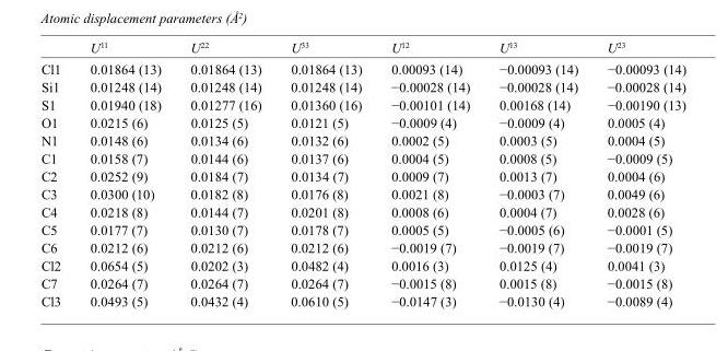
<table><thead><tr><td></td><td>U<sup>11</sup></td><td>U<sup>22</sup></td><td>U<sup>33</sup></td><td>U<sup>12</sup></td><td>U<sup>13</sup></td><td>U<sup>23</sup></td></tr></thead><tbody><tr><td>Cl1</td><td>0.01864 (13)</td><td>0.01864 (13)</td><td>0.01864 (13)</td><td>0.00093 (14)</td><td>−0.00093 (14)</td><td>−0.00093 (14)</td></tr><tr><td>Si1</td><td>0.01248 (14)</td><td>0.01248 (14)</td><td>0.01248 (14)</td><td>−0.00028 (14)</td><td>−0.00028 (14)</td><td>−0.00028 (14)</td></tr><tr><td>S1</td><td>0.01940 (18)</td><td>0.01277 (16)</td><td>0.01360 (16)</td><td>−0.00101 (14)</td><td>0.00168 (14)</td><td>−0.00190 (13)</td></tr><tr><td>O1</td><td>0.0215 (6)</td><td>0.0125 (5)</td><td>0.0121 (5)</td><td>−0.0009 (4)</td><td>−0.0009 (4)</td><td>0.0005 (4)</td></tr><tr><td>N1</td><td>0.0148 (6)</td><td>0.0134 (6)</td><td>0.0132 (6)</td><td>0.0002 (5)</td><td>0.0003 (5)</td><td>0.0004 (5)</td></tr><tr><td>C1</td><td>0.0158 (7)</td><td>0.0144 (6)</td><td>0.0137 (6)</td><td>0.0004 (5)</td><td>0.0008 (5)</td><td>−0.0009 (5)</td></tr><tr><td>C2</td><td>0.0252 (9)</td><td>0.0184 (7)</td><td>0.0134 (7)</td><td>0.0009 (7)</td><td>0.0013 (7)</td><td>0.0004 (6)</td></tr><tr><td>C3</td><td>0.0300 (10)</td><td>0.0182 (8)</td><td>0.0176 (8)</td><td>0.0021 (8)</td><td>−0.0003 (7)</td><td>0.0049 (6)</td></tr><tr><td>C4</td><td>0.0218 (8)</td><td>0.0144 (7)</td><td>0.0201 (8)</td><td>0.0008 (6)</td><td>0.0004 (7)</td><td>0.0028 (6)</td></tr><tr><td>C5</td><td>0.0177 (7)</td><td>0.0130 (7)</td><td>0.0178 (7)</td><td>0.0005 (5)</td><td>−0.0005 (6)</td><td>−0.0001 (5)</td></tr><tr><td>C6</td><td>0.0212 (6)</td><td>0.0212 (6)</td><td>0.0212 (6)</td><td>−0.0019 (7)</td><td>−0.0019 (7)</td><td>−0.0019 (7)</td></tr><tr><td>Cl2</td><td>0.0654 (5)</td><td>0.0202 (3)</td><td>0.0482 (4)</td><td>0.0016 (3)</td><td>0.0125 (4)</td><td>0.0041 (3)</td></tr><tr><td>C7</td><td>0.0264 (7)</td><td>0.0264 (7)</td><td>0.0264 (7)</td><td>−0.0015 (8)</td><td>0.0015 (8)</td><td>−0.0015 (8)</td></tr><tr><td>Cl3</td><td>0.0493 (5)</td><td>0.0432 (4)</td><td>0.0610 (5)</td><td>−0.0147 (3)</td><td>−0.0130 (4)</td><td>−0.0089 (4)</td></tr></tbody></table>